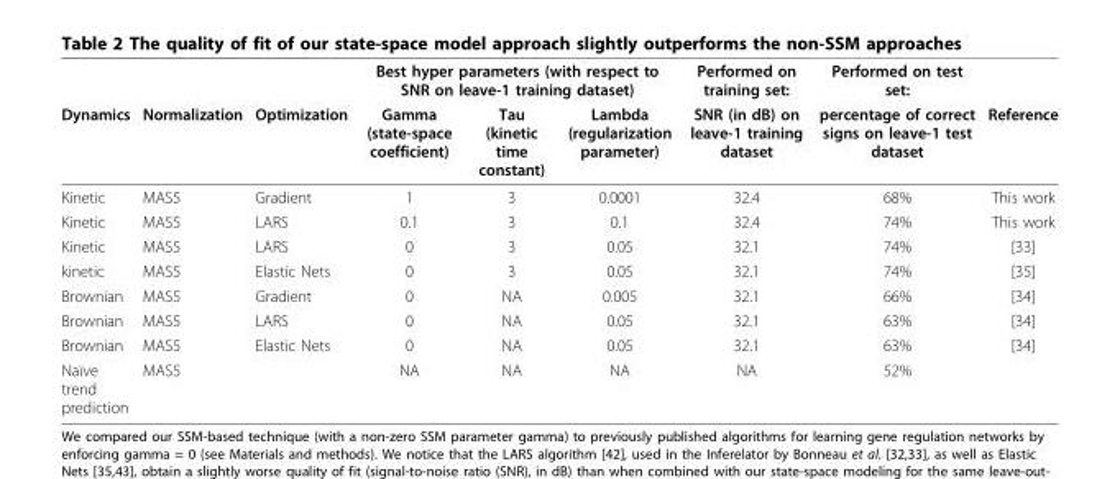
<table><thead><tr><td rowspan="2">Dynamics</td><td rowspan="2">Normalization</td><td rowspan="2">Optimization</td><td colspan="3">Best hyper parameters (with respect to SNR on leave-1 training dataset)</td><td rowspan="2">Performed on training set: SNR (in dB) on leave-1 training dataset</td><td rowspan="2">Performed on test set: percentage of correct signs on leave-1 test dataset</td><td rowspan="2">Reference</td></tr><tr><td>Gamma (state-space coefficient)</td><td>Tau (kinetic time constant)</td><td>Lambda (regularization parameter)</td></tr></thead><tbody><tr><td>Kinetic</td><td>MAS5</td><td>Gradient</td><td>1</td><td>3</td><td>0.0001</td><td>32.4</td><td>68%</td><td>This work</td></tr><tr><td>Kinetic</td><td>MAS5</td><td>LARS</td><td>0.1</td><td>3</td><td>0.1</td><td>32.4</td><td>74%</td><td>This work</td></tr><tr><td>Kinetic</td><td>MAS5</td><td>LARS</td><td>0</td><td>3</td><td>0.05</td><td>32.1</td><td>74%</td><td>[33]</td></tr><tr><td>kinetic</td><td>MAS5</td><td>Elastic Nets</td><td>0</td><td>3</td><td>0.05</td><td>32.1</td><td>74%</td><td>[35]</td></tr><tr><td>Brownian</td><td>MAS5</td><td>Gradient</td><td>0</td><td>NA</td><td>0.005</td><td>32.1</td><td>66%</td><td>[34]</td></tr><tr><td>Brownian</td><td>MAS5</td><td>LARS</td><td>0</td><td>NA</td><td>0.05</td><td>32.1</td><td>63%</td><td>[34]</td></tr><tr><td>Brownian</td><td>MAS5</td><td>Elastic Nets</td><td>0</td><td>NA</td><td>0.05</td><td>32.1</td><td>63%</td><td>[34]</td></tr><tr><td>Naïve trend prediction</td><td>MAS5</td><td></td><td>NA</td><td>NA</td><td>NA</td><td>NA</td><td>52%</td><td></td></tr></tbody></table>